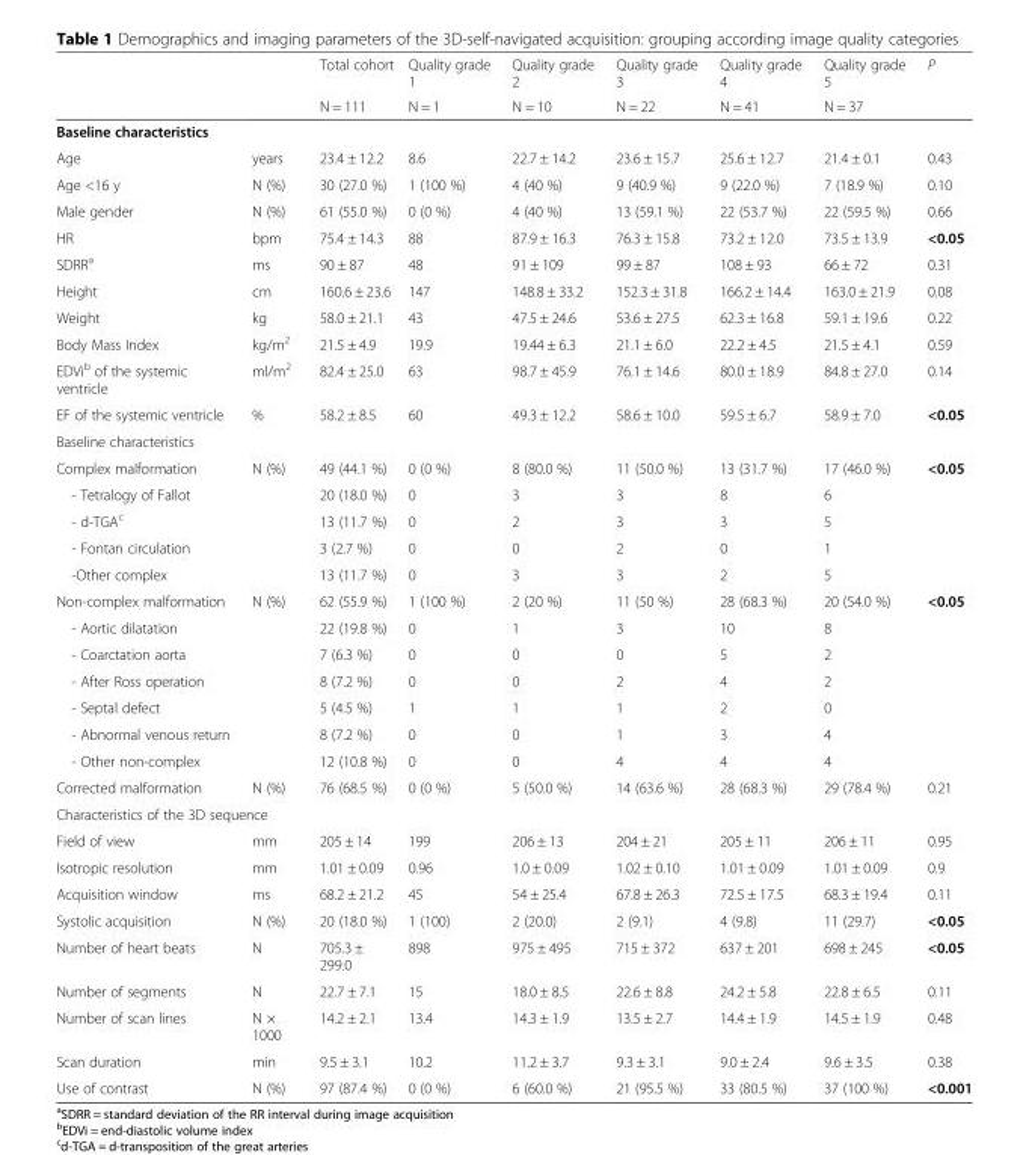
<table><thead><tr><td rowspan="2"></td><td rowspan="2"></td><td rowspan="2">Total cohort N = 111</td><td rowspan="2">Quality grade 1 N = 1</td><td rowspan="2">Quality grade 2 N = 10</td><td rowspan="2">Quality grade 3 N = 22</td><td rowspan="2">Quality grade 4 N = 41</td><td rowspan="2">Quality grade 5 N = 37</td><td rowspan="2">P</td></tr><tr></tr></thead><tbody><tr><td colspan="9">Baseline characteristics</td></tr><tr><td>Age</td><td>years</td><td>23.4 ± 12.2</td><td>8.6</td><td>22.7 ± 14.2</td><td>23.6 ± 15.7</td><td>25.6 ± 12.7</td><td>21.4 ± 0.1</td><td>0.43</td></tr><tr><td>Age &lt;16 y</td><td>N (%)</td><td>30 (27.0 %)</td><td>1 (100 %)</td><td>4 (40 %)</td><td>9 (40.9 %)</td><td>9 (22.0 %)</td><td>7 (18.9 %)</td><td>0.10</td></tr><tr><td>Male gender</td><td>N (%)</td><td>61 (55.0 %)</td><td>0 (0 %)</td><td>4 (40 %)</td><td>13 (59.1 %)</td><td>22 (53.7 %)</td><td>22 (59.5 %)</td><td>0.66</td></tr><tr><td>HR</td><td>bpm</td><td>75.4 ± 14.3</td><td>88</td><td>87.9 ± 16.3</td><td>76.3 ± 15.8</td><td>73.2 ± 12.0</td><td>73.5 ± 13.9</td><td>&lt;0.05</td></tr><tr><td>SDRR<sup>a</sup></td><td>ms</td><td>90 ± 87</td><td>48</td><td>91 ± 109</td><td>99 ± 87</td><td>108 ± 93</td><td>66 ± 72</td><td>0.31</td></tr><tr><td>Height</td><td>cm</td><td>160.6 ± 23.6</td><td>147</td><td>148.8 ± 33.2</td><td>152.3 ± 31.8</td><td>166.2 ± 14.4</td><td>163.0 ± 21.9</td><td>0.08</td></tr><tr><td>Weight</td><td>kg</td><td>58.0 ± 21.1</td><td>43</td><td>47.5 ± 24.6</td><td>53.6 ± 27.5</td><td>62.3 ± 16.8</td><td>59.1 ± 19.6</td><td>0.22</td></tr><tr><td>Body Mass Index</td><td>kg/m<sup>2</sup></td><td>21.5 ± 4.9</td><td>19.9</td><td>19.44 ± 6.3</td><td>21.1 ± 6.0</td><td>22.2 ± 4.5</td><td>21.5 ± 4.1</td><td>0.59</td></tr><tr><td>EDVi<sup>b</sup> of the systemic ventricle</td><td>ml/m<sup>2</sup></td><td>82.4 ± 25.0</td><td>63</td><td>98.7 ± 45.9</td><td>76.1 ± 14.6</td><td>80.0 ± 18.9</td><td>84.8 ± 27.0</td><td>0.14</td></tr><tr><td>EF of the systemic ventricle</td><td>%</td><td>58.2 ± 8.5</td><td>60</td><td>49.3 ± 12.2</td><td>58.6 ± 10.0</td><td>59.5 ± 6.7</td><td>58.9 ± 7.0</td><td>&lt;0.05</td></tr><tr><td colspan="9">Baseline characteristics</td></tr><tr><td>Complex malformation</td><td>N (%)</td><td>49 (44.1 %)</td><td>0 (0 %)</td><td>8 (80.0 %)</td><td>11 (50.0 %)</td><td>13 (31.7 %)</td><td>17 (46.0 %)</td><td>&lt;0.05</td></tr><tr><td colspan="2">- Tetralogy of Fallot</td><td>20 (18.0 %)</td><td>0</td><td>3</td><td>3</td><td>8</td><td>6</td><td></td></tr><tr><td colspan="2">- d-TGA<sup>c</sup></td><td>13 (11.7 %)</td><td>0</td><td>2</td><td>3</td><td>3</td><td>5</td><td></td></tr><tr><td colspan="2">- Fontan circulation</td><td>3 (2.7 %)</td><td>0</td><td>0</td><td>2</td><td>0</td><td>1</td><td></td></tr><tr><td colspan="2">-Other complex</td><td>13 (11.7 %)</td><td>0</td><td>3</td><td>3</td><td>2</td><td>5</td><td></td></tr><tr><td>Non-complex malformation</td><td>N (%)</td><td>62 (55.9 %)</td><td>1 (100 %)</td><td>2 (20 %)</td><td>11 (50 %)</td><td>28 (68.3 %)</td><td>20 (54.0 %)</td><td>&lt;0.05</td></tr><tr><td colspan="2">- Aortic dilatation</td><td>22 (19.8 %)</td><td>0</td><td>1</td><td>3</td><td>10</td><td>8</td><td></td></tr><tr><td colspan="2">- Coarctation aorta</td><td>7 (6.3 %)</td><td>0</td><td>0</td><td>0</td><td>5</td><td>2</td><td></td></tr><tr><td colspan="2">- After Ross operation</td><td>8 (7.2 %)</td><td>0</td><td>0</td><td>2</td><td>4</td><td>2</td><td></td></tr><tr><td colspan="2">- Septal defect</td><td>5 (4.5 %)</td><td>1</td><td>1</td><td>1</td><td>2</td><td>0</td><td></td></tr><tr><td colspan="2">- Abnormal venous return</td><td>8 (7.2 %)</td><td>0</td><td>0</td><td>1</td><td>3</td><td>4</td><td></td></tr><tr><td colspan="2">- Other non-complex</td><td>12 (10.8 %)</td><td>0</td><td>0</td><td>4</td><td>4</td><td>4</td><td></td></tr><tr><td>Corrected malformation</td><td>N (%)</td><td>76 (68.5 %)</td><td>0 (0 %)</td><td>5 (50.0 %)</td><td>14 (63.6 %)</td><td>28 (68.3 %)</td><td>29 (78.4 %)</td><td>0.21</td></tr><tr><td colspan="9">Characteristics of the 3D sequence</td></tr><tr><td>Field of view</td><td>mm</td><td>205 ± 14</td><td>199</td><td>206 ± 13</td><td>204 ± 21</td><td>205 ± 11</td><td>206 ± 11</td><td>0.95</td></tr><tr><td>Isotropic resolution</td><td>mm</td><td>1.01 ± 0.09</td><td>0.96</td><td>1.0 ± 0.09</td><td>1.02 ± 0.10</td><td>1.01 ± 0.09</td><td>1.01 ± 0.09</td><td>0.9</td></tr><tr><td>Acquisition window</td><td>ms</td><td>68.2 ± 21.2</td><td>45</td><td>54 ± 25.4</td><td>67.8 ± 26.3</td><td>72.5 ± 17.5</td><td>68.3 ± 19.4</td><td>0.11</td></tr><tr><td>Systolic acquisition</td><td>N (%)</td><td>20 (18.0 %)</td><td>1 (100)</td><td>2 (20.0)</td><td>2 (9.1)</td><td>4 (9.8)</td><td>11 (29.7)</td><td>&lt;0.05</td></tr><tr><td>Number of heart beats</td><td>N</td><td>705.3 ± 299.0</td><td>898</td><td>975 ± 495</td><td>715 ± 372</td><td>637 ± 201</td><td>698 ± 245</td><td>&lt;0.05</td></tr><tr><td>Number of segments</td><td>N</td><td>22.7 ± 7.1</td><td>15</td><td>18.0 ± 8.5</td><td>22.6 ± 8.8</td><td>24.2 ± 5.8</td><td>22.8 ± 6.5</td><td>0.11</td></tr><tr><td>Number of scan lines</td><td>N × 1000</td><td>14.2 ± 2.1</td><td>13.4</td><td>14.3 ± 1.9</td><td>13.5 ± 2.7</td><td>14.4 ± 1.9</td><td>14.5 ± 1.9</td><td>0.48</td></tr><tr><td>Scan duration</td><td>min</td><td>9.5 ± 3.1</td><td>10.2</td><td>11.2 ± 3.7</td><td>9.3 ± 3.1</td><td>9.0 ± 2.4</td><td>9.6 ± 3.5</td><td>0.38</td></tr><tr><td>Use of contrast</td><td>N (%)</td><td>97 (87.4 %)</td><td>0 (0 %)</td><td>6 (60.0 %)</td><td>21 (95.5 %)</td><td>33 (80.5 %)</td><td>37 (100 %)</td><td>&lt;0.001</td></tr></tbody></table>